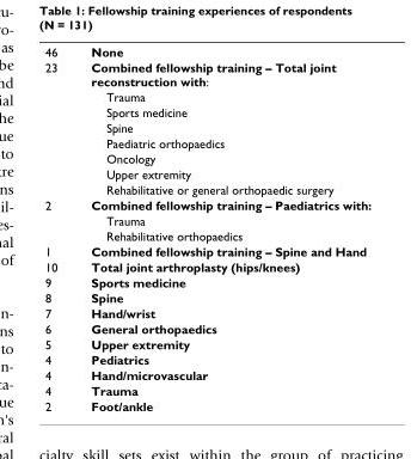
<table><tbody><tr><td>46</td><td>None</td></tr><tr><td rowspan="8">23</td><td>Combined fellowship training – Total joint reconstruction with:</td></tr><tr><td>Trauma</td></tr><tr><td>Sports medicine</td></tr><tr><td>Spine</td></tr><tr><td>Paediatric orthopaedics</td></tr><tr><td>Oncology</td></tr><tr><td>Upper extremity</td></tr><tr><td>Rehabilitative or general orthopaedic surgery</td></tr><tr><td rowspan="3">2</td><td>Combined fellowship training – Paediatrics with:</td></tr><tr><td>Trauma</td></tr><tr><td>Rehabilitative orthopaedics</td></tr><tr><td>1</td><td>Combined fellowship training – Spine and Hand</td></tr><tr><td>10</td><td>Total joint arthroplasty (hips/knees)</td></tr><tr><td>9</td><td>Sports medicine</td></tr><tr><td>8</td><td>Spine</td></tr><tr><td>7</td><td>Hand/wrist</td></tr><tr><td>6</td><td>General orthopaedics</td></tr><tr><td>5</td><td>Upper extremity</td></tr><tr><td>4</td><td>Pediatrics</td></tr><tr><td>4</td><td>Hand/microvascular</td></tr><tr><td>4</td><td>Trauma</td></tr><tr><td>2</td><td>Foot/ankle</td></tr></tbody></table>